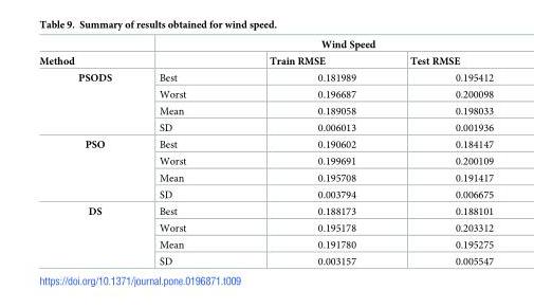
<table><thead><tr><td rowspan="2">Method</td><td colspan="3">Wind Speed</td></tr><tr><td></td><td>Train RMSE</td><td>Test RMSE</td></tr></thead><tbody><tr><td rowspan="4">PSODS</td><td>Best</td><td>0.181989</td><td>0.195412</td></tr><tr><td>Worst</td><td>0.196687</td><td>0.200098</td></tr><tr><td>Mean</td><td>0.189058</td><td>0.198033</td></tr><tr><td>SD</td><td>0.006013</td><td>0.001936</td></tr><tr><td rowspan="4">PSO</td><td>Best</td><td>0.190602</td><td>0.184147</td></tr><tr><td>Worst</td><td>0.199691</td><td>0.200109</td></tr><tr><td>Mean</td><td>0.195708</td><td>0.191417</td></tr><tr><td>SD</td><td>0.003794</td><td>0.006675</td></tr><tr><td rowspan="4">DS</td><td>Best</td><td>0.188173</td><td>0.188101</td></tr><tr><td>Worst</td><td>0.195178</td><td>0.203312</td></tr><tr><td>Mean</td><td>0.191780</td><td>0.195275</td></tr><tr><td>SD</td><td>0.003157</td><td>0.005547</td></tr></tbody></table>